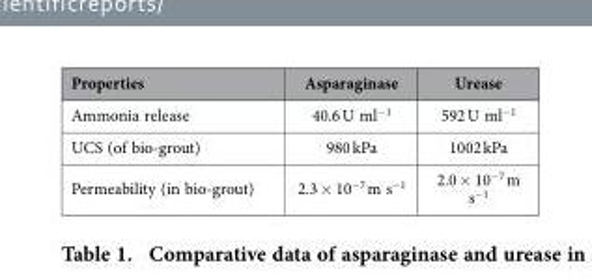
<table><thead><tr><td>Properties</td><td>Asparaginase</td><td>Urease</td></tr></thead><tbody><tr><td>Ammonia release</td><td>40.6 U ml<sup>−1</sup></td><td>592 U ml<sup>−1</sup></td></tr><tr><td>UCS (of bio-grout)</td><td>980 kPa</td><td>1002 kPa</td></tr><tr><td>Permeability (in bio-grout)</td><td>2.3 × 10<sup>−7</sup> m s<sup>−1</sup></td><td>2.0 × 10<sup>−7</sup> m s<sup>−1</sup></td></tr></tbody></table>